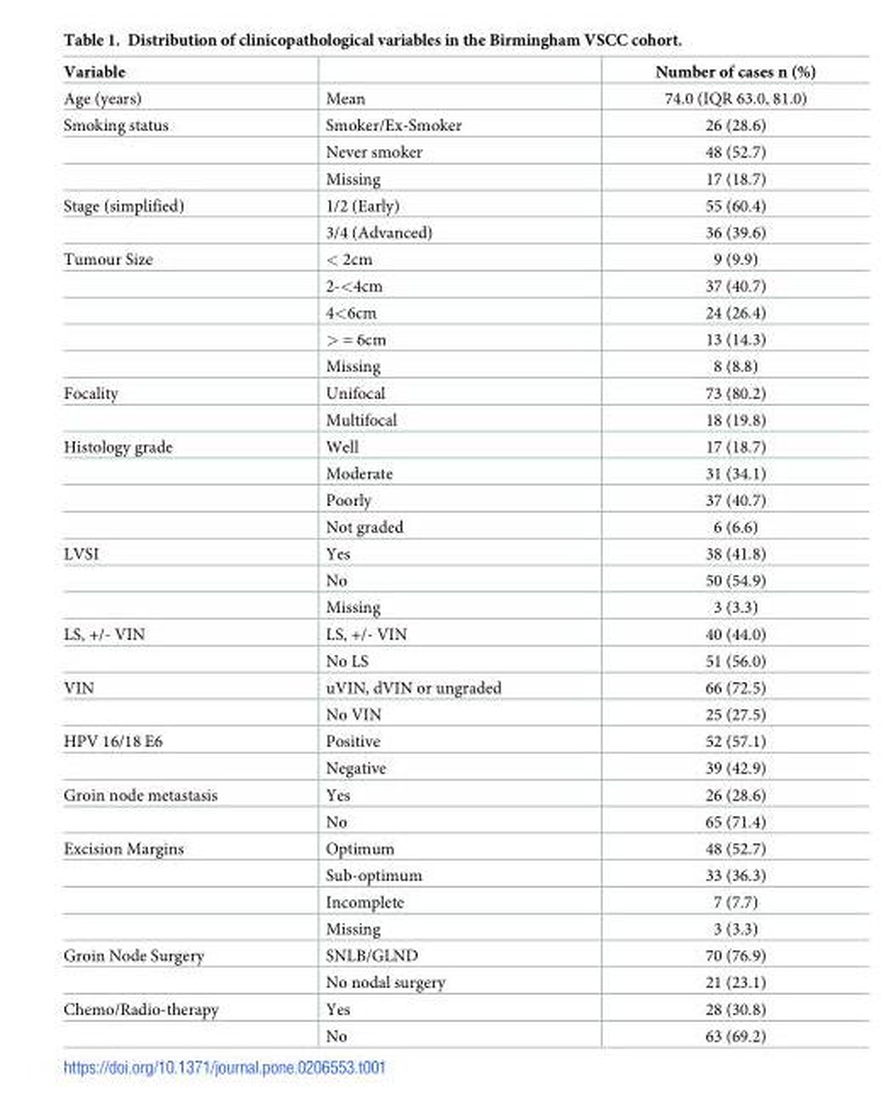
<table><thead><tr><td>Variable</td><td></td><td>Number of cases n (%)</td></tr></thead><tbody><tr><td>Age (years)</td><td>Mean</td><td>74.0 (IQR 63.0, 81.0)</td></tr><tr><td rowspan="3">Smoking status</td><td>Smoker/Ex-Smoker</td><td>26 (28.6)</td></tr><tr><td>Never smoker</td><td>48 (52.7)</td></tr><tr><td>Missing</td><td>17 (18.7)</td></tr><tr><td rowspan="2">Stage (simplified)</td><td>1/2 (Early)</td><td>55 (60.4)</td></tr><tr><td>3/4 (Advanced)</td><td>36 (39.6)</td></tr><tr><td rowspan="5">Tumour Size</td><td>&lt; 2cm</td><td>9 (9.9)</td></tr><tr><td>2-&lt;4cm</td><td>37 (40.7)</td></tr><tr><td>4&lt;6cm</td><td>24 (26.4)</td></tr><tr><td>&gt; = 6cm</td><td>13 (14.3)</td></tr><tr><td>Missing</td><td>8 (8.8)</td></tr><tr><td rowspan="2">Focality</td><td>Unifocal</td><td>73 (80.2)</td></tr><tr><td>Multifocal</td><td>18 (19.8)</td></tr><tr><td rowspan="4">Histology grade</td><td>Well</td><td>17 (18.7)</td></tr><tr><td>Moderate</td><td>31 (34.1)</td></tr><tr><td>Poorly</td><td>37 (40.7)</td></tr><tr><td>Not graded</td><td>6 (6.6)</td></tr><tr><td rowspan="3">LVSI</td><td>Yes</td><td>38 (41.8)</td></tr><tr><td>No</td><td>50 (54.9)</td></tr><tr><td>Missing</td><td>3 (3.3)</td></tr><tr><td rowspan="2">LS, +/- VIN</td><td>LS, +/- VIN</td><td>40 (44.0)</td></tr><tr><td>No LS</td><td>51 (56.0)</td></tr><tr><td rowspan="2">VIN</td><td>uVIN, dVIN or ungraded</td><td>66 (72.5)</td></tr><tr><td>No VIN</td><td>25 (27.5)</td></tr><tr><td rowspan="2">HPV 16/18 E6</td><td>Positive</td><td>52 (57.1)</td></tr><tr><td>Negative</td><td>39 (42.9)</td></tr><tr><td rowspan="2">Groin node metastasis</td><td>Yes</td><td>26 (28.6)</td></tr><tr><td>No</td><td>65 (71.4)</td></tr><tr><td rowspan="4">Excision Margins</td><td>Optimum</td><td>48 (52.7)</td></tr><tr><td>Sub-optimum</td><td>33 (36.3)</td></tr><tr><td>Incomplete</td><td>7 (7.7)</td></tr><tr><td>Missing</td><td>3 (3.3)</td></tr><tr><td rowspan="2">Groin Node Surgery</td><td>SNLB/GLND</td><td>70 (76.9)</td></tr><tr><td>No nodal surgery</td><td>21 (23.1)</td></tr><tr><td rowspan="2">Chemo/Radio-therapy</td><td>Yes</td><td>28 (30.8)</td></tr><tr><td>No</td><td>63 (69.2)</td></tr></tbody></table>